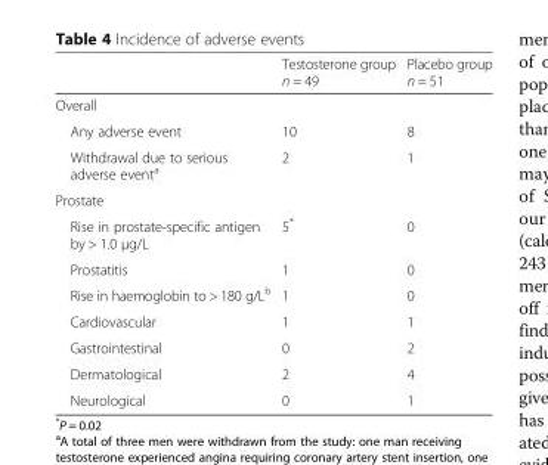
<table><thead><tr><td></td><td>Testosterone group n = 49</td><td>Placebo group n = 51</td></tr></thead><tbody><tr><td colspan="3">Overall</td></tr><tr><td>Any adverse event</td><td>10</td><td>8</td></tr><tr><td>Withdrawal due to serious adverse event<sup>a</sup></td><td>2</td><td>1</td></tr><tr><td colspan="3">Prostate</td></tr><tr><td>Rise in prostate-specific antigen by &gt; 1.0 μg/L</td><td>5*</td><td>0</td></tr><tr><td>Prostatitis</td><td>1</td><td>0</td></tr><tr><td>Rise in haemoglobin to &gt; 180 g/L<sup>b</sup></td><td>1</td><td>0</td></tr><tr><td>Cardiovascular</td><td>1</td><td>1</td></tr><tr><td>Gastrointestinal</td><td>0</td><td>2</td></tr><tr><td>Dermatological</td><td>2</td><td>4</td></tr><tr><td>Neurological</td><td>0</td><td>1</td></tr></tbody></table>